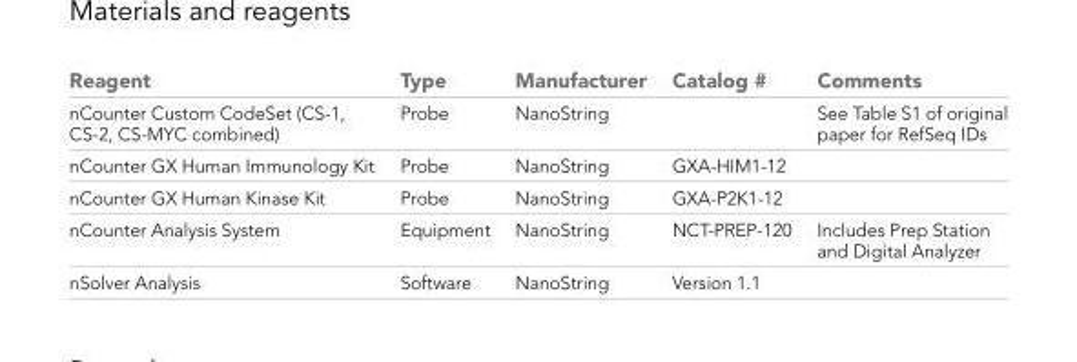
<table><thead><tr><td>Reagent</td><td>Type</td><td>Manufacturer</td><td>Catalog #</td><td>Comments</td></tr></thead><tbody><tr><td>nCounter Custom CodeSet (CS-1, CS-2, CS-MYC combined)</td><td>Probe</td><td>NanoString</td><td></td><td>See Table S1 of original paper for RefSeq IDs</td></tr><tr><td>nCounter GX Human Immunology Kit</td><td>Probe</td><td>NanoString</td><td>GXA-HIM1-12</td><td></td></tr><tr><td>nCounter GX Human Kinase Kit</td><td>Probe</td><td>NanoString</td><td>GXA-P2K1-12</td><td></td></tr><tr><td>nCounter Analysis System</td><td>Equipment</td><td>NanoString</td><td>NCT-PREP-120</td><td>Includes Prep Station and Digital Analyzer</td></tr><tr><td>nSolver Analysis</td><td>Software</td><td>NanoString</td><td>Version 1.1</td><td></td></tr></tbody></table>